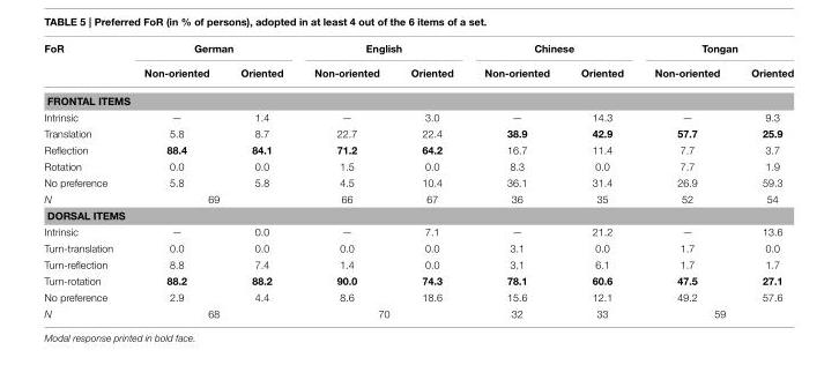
<table><thead><tr><td rowspan="2">FoR</td><td colspan="2">German</td><td colspan="2">English</td><td colspan="2">Chinese</td><td colspan="2">Tongan</td></tr><tr><td>Non-oriented</td><td>Oriented</td><td>Non-oriented</td><td>Oriented</td><td>Non-oriented</td><td>Oriented</td><td>Non-oriented</td><td>Oriented</td></tr></thead><tbody><tr><td colspan="9">FRONTAL ITEMS</td></tr><tr><td>Intrinsic</td><td>—</td><td>1.4</td><td>—</td><td>3.0</td><td>—</td><td>14.3</td><td>—</td><td>9.3</td></tr><tr><td>Translation</td><td>5.8</td><td>8.7</td><td>22.7</td><td>22.4</td><td>38.9</td><td>42.9</td><td>57.7</td><td>25.9</td></tr><tr><td>Reflection</td><td>88.4</td><td>84.1</td><td>71.2</td><td>64.2</td><td>16.7</td><td>11.4</td><td>7.7</td><td>3.7</td></tr><tr><td>Rotation</td><td>0.0</td><td>0.0</td><td>1.5</td><td>0.0</td><td>8.3</td><td>0.0</td><td>7.7</td><td>1.9</td></tr><tr><td>No preference</td><td>5.8</td><td>5.8</td><td>4.5</td><td>10.4</td><td>36.1</td><td>31.4</td><td>26.9</td><td>59.3</td></tr><tr><td>N</td><td colspan="2">69</td><td>66</td><td>67</td><td>36</td><td>35</td><td>52</td><td>54</td></tr><tr><td colspan="9">DORSAL ITEMS</td></tr><tr><td>Intrinsic</td><td>—</td><td>0.0</td><td>—</td><td>7.1</td><td>—</td><td>21.2</td><td>—</td><td>13.6</td></tr><tr><td>Turn-translation</td><td>0.0</td><td>0.0</td><td>0.0</td><td>0.0</td><td>3.1</td><td>0.0</td><td>1.7</td><td>0.0</td></tr><tr><td>Turn-reflection</td><td>8.8</td><td>7.4</td><td>1.4</td><td>0.0</td><td>3.1</td><td>6.1</td><td>1.7</td><td>1.7</td></tr><tr><td>Turn-rotation</td><td>88.2</td><td>88.2</td><td>90.0</td><td>74.3</td><td>78.1</td><td>60.6</td><td>47.5</td><td>27.1</td></tr><tr><td>No preference</td><td>2.9</td><td>4.4</td><td>8.6</td><td>18.6</td><td>15.6</td><td>12.1</td><td>49.2</td><td>57.6</td></tr><tr><td>N</td><td colspan="2">68</td><td colspan="2">70</td><td>32</td><td>33</td><td colspan="2">59</td></tr></tbody></table>